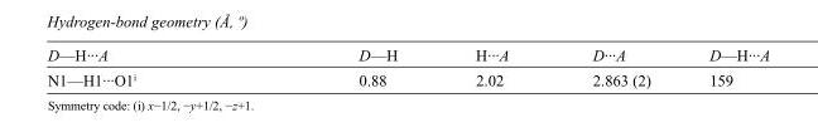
<table><tbody><tr><td>D—H···A</td><td>D—H</td><td>H···A</td><td>D···A</td><td>D—H···A</td></tr><tr><td>N1—H1···O1<sup>i</sup></td><td>0.88</td><td>2.02</td><td>2.863 (2)</td><td>159</td></tr></tbody></table>